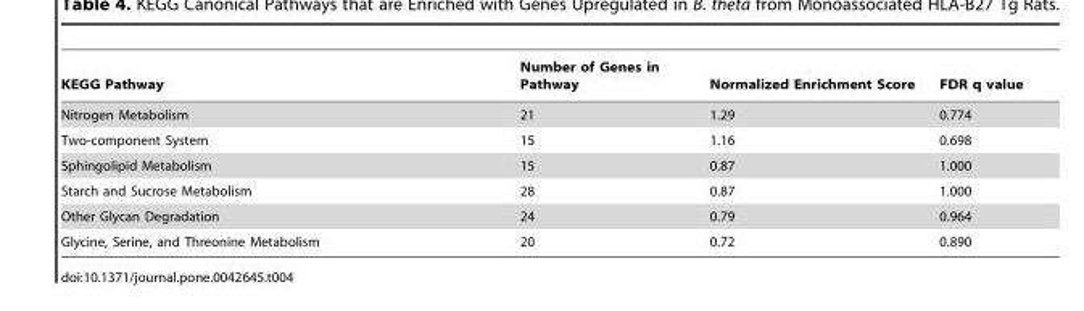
<table><thead><tr><td>KEGG Pathway</td><td>Number of Genes in Pathway</td><td>Normalized Enrichment Score</td><td>FDR q value</td></tr></thead><tbody><tr><td>Nitrogen Metabolism</td><td>21</td><td>1.29</td><td>0.774</td></tr><tr><td>Two-component System</td><td>15</td><td>1.16</td><td>0.698</td></tr><tr><td>Sphingolipid Metabolism</td><td>15</td><td>0.87</td><td>1.000</td></tr><tr><td>Starch and Sucrose Metabolism</td><td>28</td><td>0.87</td><td>1.000</td></tr><tr><td>Other Glycan Degradation</td><td>24</td><td>0.79</td><td>0.964</td></tr><tr><td>Glycine, Serine, and Threonine Metabolism</td><td>20</td><td>0.72</td><td>0.890</td></tr></tbody></table>